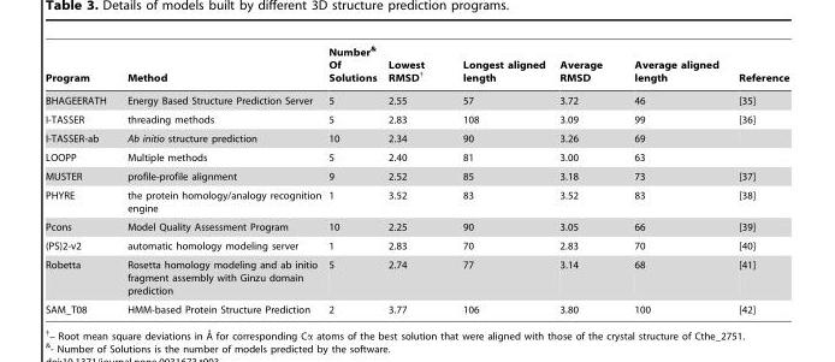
<table><thead><tr><td>Program</td><td>Method</td><td>Number&amp; Of Solutions</td><td>Lowest RMSD†</td><td>Longest aligned length</td><td>Average RMSD</td><td>Average aligned length</td><td>Reference</td></tr></thead><tbody><tr><td>BHAGEERATH</td><td>Energy Based Structure Prediction Server</td><td>5</td><td>2.55</td><td>57</td><td>3.72</td><td>46</td><td>[35]</td></tr><tr><td>I-TASSER</td><td>threading methods</td><td>5</td><td>2.83</td><td>108</td><td>3.09</td><td>99</td><td>[36]</td></tr><tr><td>I-TASSER-ab</td><td>Ab initio structure prediction</td><td>10</td><td>2.34</td><td>90</td><td>3.26</td><td>69</td><td></td></tr><tr><td>LOOPP</td><td>Multiple methods</td><td>5</td><td>2.40</td><td>81</td><td>3.00</td><td>63</td><td></td></tr><tr><td>MUSTER</td><td>profile-profile alignment</td><td>9</td><td>2.52</td><td>85</td><td>3.18</td><td>73</td><td>[37]</td></tr><tr><td>PHYRE</td><td>the protein homology/analogy recognition engine</td><td>1</td><td>3.52</td><td>83</td><td>3.52</td><td>83</td><td>[38]</td></tr><tr><td>Pcons</td><td>Model Quality Assessment Program</td><td>10</td><td>2.25</td><td>90</td><td>3.05</td><td>66</td><td>[39]</td></tr><tr><td>(PS)2-v2</td><td>automatic homology modeling server</td><td>1</td><td>2.83</td><td>70</td><td>2.83</td><td>70</td><td>[40]</td></tr><tr><td>Robetta</td><td>Rosetta homology modeling and ab initio fragment assembly with Ginzu domain prediction</td><td>5</td><td>2.74</td><td>77</td><td>3.14</td><td>68</td><td>[41]</td></tr><tr><td>SAM_T08</td><td>HMM-based Protein Structure Prediction</td><td>2</td><td>3.77</td><td>106</td><td>3.80</td><td>100</td><td>[42]</td></tr></tbody></table>